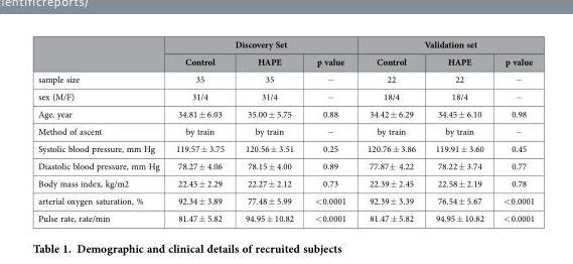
<table><thead><tr><td rowspan="2"></td><td colspan="3">Discovery Set</td><td colspan="3">Validation set</td></tr><tr><td>Control</td><td>HAPE</td><td>p value</td><td>Control</td><td>HAPE</td><td>p value</td></tr></thead><tbody><tr><td>sample size</td><td>35</td><td>35</td><td>−</td><td>22</td><td>22</td><td>−</td></tr><tr><td>sex (M/F)</td><td>31/4</td><td>31/4</td><td>−</td><td>18/4</td><td>18/4</td><td>−</td></tr><tr><td>Age, year</td><td>34.81 ± 6.03</td><td>35.00 ± 5.75</td><td>0.88</td><td>34.42 ± 6.29</td><td>34.45 ± 6.10</td><td>0.98</td></tr><tr><td>Method of ascent</td><td>by train</td><td>by train</td><td>−</td><td>by train</td><td>by train</td><td>−</td></tr><tr><td>Systolic blood pressure, mm Hg</td><td>119.57 ± 3.75</td><td>120.56 ± 3.51</td><td>0.25</td><td>120.76 ± 3.86</td><td>119.91 ± 3.60</td><td>0.45</td></tr><tr><td>Diastolic blood pressure, mm Hg</td><td>78.27 ± 4.06</td><td>78.15 ± 4.00</td><td>0.89</td><td>77.87± 4.22</td><td>78.22 ± 3.74</td><td>0.77</td></tr><tr><td>Body mass index, kg/m2</td><td>22.45 ± 2.29</td><td>22.27 ± 2.12</td><td>0.73</td><td>22.39 ± 2.45</td><td>22.58 ± 2.19</td><td>0.78</td></tr><tr><td>arterial oxygen saturation, %</td><td>92.34 ± 3.89</td><td>77.48 ± 5.99</td><td>&lt; 0.0001</td><td>92.39 ± 3.39</td><td>76.54 ± 5.67</td><td>&lt; 0.0001</td></tr><tr><td>Pulse rate, rate/min</td><td>81.47 ± 5.82</td><td>94.95 ± 10.82</td><td>&lt; 0.0001</td><td>81.47 ± 5.82</td><td>94.95 ± 10.82</td><td>&lt; 0.0001</td></tr></tbody></table>